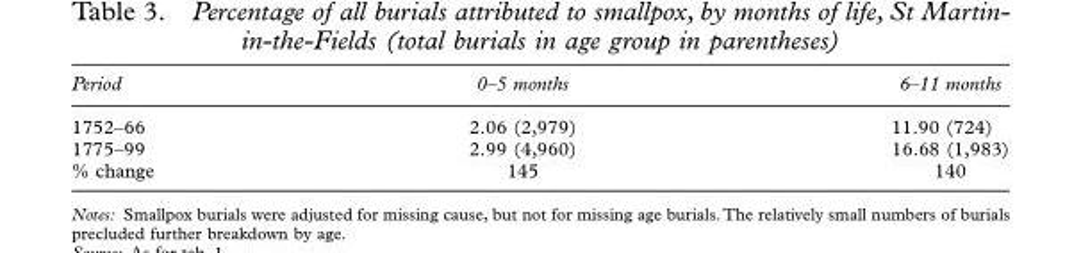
<table><thead><tr><td>Period</td><td>0–5 months</td><td>6–11 months</td></tr></thead><tbody><tr><td>1752–66</td><td>2.06 (2,979)</td><td>11.90 (724)</td></tr><tr><td>1775–99</td><td>2.99 (4,960)</td><td>16.68 (1,983)</td></tr><tr><td>% change</td><td>145</td><td>140</td></tr></tbody></table>